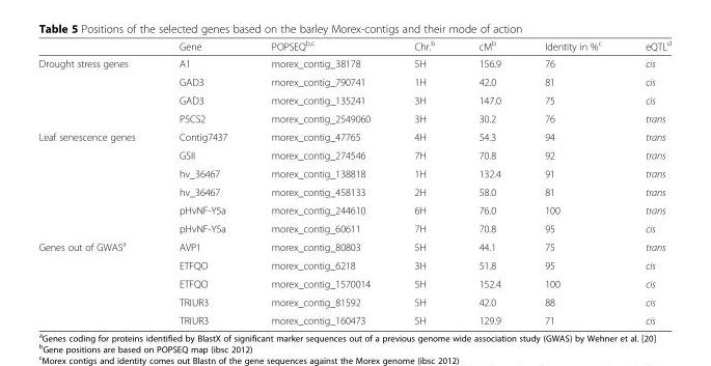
<table><thead><tr><td></td><td>Gene</td><td>POPSEQ<sup>b,c</sup></td><td>Chr.<sup>b</sup></td><td>cM<sup>b</sup></td><td>Identity in %<sup>c</sup></td><td>eQTL<sup>d</sup></td></tr></thead><tbody><tr><td rowspan="4">Drought stress genes</td><td>A1</td><td>morex_contig_38178</td><td>5H</td><td>156.9</td><td>76</td><td>cis</td></tr><tr><td>GAD3</td><td>morex_contig_790741</td><td>1H</td><td>42.0</td><td>81</td><td>cis</td></tr><tr><td>GAD3</td><td>morex_contig_135241</td><td>3H</td><td>147.0</td><td>75</td><td>cis</td></tr><tr><td>P5CS2</td><td>morex_contig_2549060</td><td>3H</td><td>30.2</td><td>76</td><td>trans</td></tr><tr><td rowspan="6">Leaf senescence genes</td><td>Contig7437</td><td>morex_contig_47765</td><td>4H</td><td>54.3</td><td>94</td><td>trans</td></tr><tr><td>GSII</td><td>morex_contig_274546</td><td>7H</td><td>70.8</td><td>92</td><td>trans</td></tr><tr><td>hv_36467</td><td>morex_contig_138818</td><td>1H</td><td>132.4</td><td>91</td><td>trans</td></tr><tr><td>hv_36467</td><td>morex_contig_458133</td><td>2H</td><td>58.0</td><td>81</td><td>trans</td></tr><tr><td>pHvNF-Y5a</td><td>morex_contig_244610</td><td>6H</td><td>76.0</td><td>100</td><td>trans</td></tr><tr><td>pHvNF-Y5a</td><td>morex_contig_60611</td><td>7H</td><td>70.8</td><td>95</td><td>cis</td></tr><tr><td rowspan="5">Genes out of GWAS<sup>a</sup></td><td>AVP1</td><td>morex_contig_80803</td><td>5H</td><td>44.1</td><td>75</td><td>trans</td></tr><tr><td>ETFQO</td><td>morex_contig_6218</td><td>3H</td><td>51.8</td><td>95</td><td>cis</td></tr><tr><td>ETFQO</td><td>morex_contig_1570014</td><td>5H</td><td>152.4</td><td>100</td><td>cis</td></tr><tr><td>TRIUR3</td><td>morex_contig_81592</td><td>5H</td><td>42.0</td><td>88</td><td>cis</td></tr><tr><td>TRIUR3</td><td>morex_contig_160473</td><td>5H</td><td>129.9</td><td>71</td><td>cis</td></tr></tbody></table>